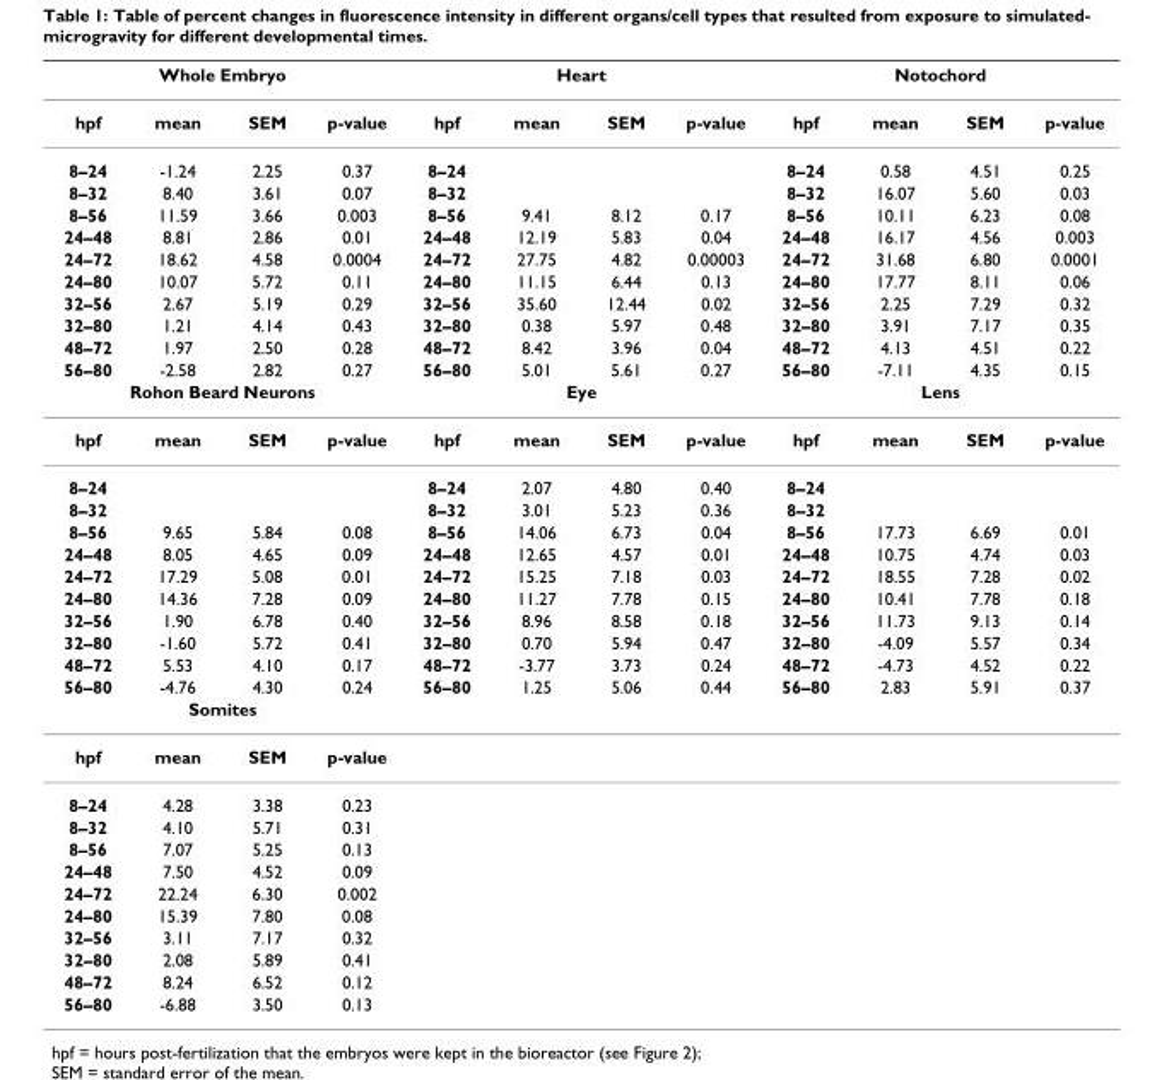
<table><thead><tr><td colspan="4">Whole Embryo</td><td colspan="4">Heart</td><td colspan="4">Notochord</td></tr><tr><td>hpf</td><td>mean</td><td>SEM</td><td>p-value</td><td>hpf</td><td>mean</td><td>SEM</td><td>p-value</td><td>hpf</td><td>mean</td><td>SEM</td><td>p-value</td></tr></thead><tbody><tr><td>8–24</td><td>-1.24</td><td>2.25</td><td>0.37</td><td>8–24</td><td></td><td></td><td></td><td>8–24</td><td>0.58</td><td>4.51</td><td>0.25</td></tr><tr><td>8–32</td><td>8.40</td><td>3.61</td><td>0.07</td><td>8–32</td><td></td><td></td><td></td><td>8–32</td><td>16.07</td><td>5.60</td><td>0.03</td></tr><tr><td>8–56</td><td>11.59</td><td>3.66</td><td>0.003</td><td>8–56</td><td>9.41</td><td>8.12</td><td>0.17</td><td>8–56</td><td>10.11</td><td>6.23</td><td>0.08</td></tr><tr><td>24–48</td><td>8.81</td><td>2.86</td><td>0.01</td><td>24–48</td><td>12.19</td><td>5.83</td><td>0.04</td><td>24–48</td><td>16.17</td><td>4.56</td><td>0.003</td></tr><tr><td>24–72</td><td>18.62</td><td>4.58</td><td>0.0004</td><td>24–72</td><td>27.75</td><td>4.82</td><td>0.00003</td><td>24–72</td><td>31.68</td><td>6.80</td><td>0.0001</td></tr><tr><td>24–80</td><td>10.07</td><td>5.72</td><td>0.11</td><td>24–80</td><td>11.15</td><td>6.44</td><td>0.13</td><td>24–80</td><td>17.77</td><td>8.11</td><td>0.06</td></tr><tr><td>32–56</td><td>2.67</td><td>5.19</td><td>0.29</td><td>32–56</td><td>35.60</td><td>12.44</td><td>0.02</td><td>32–56</td><td>2.25</td><td>7.29</td><td>0.32</td></tr><tr><td>32–80</td><td>1.21</td><td>4.14</td><td>0.43</td><td>32–80</td><td>0.38</td><td>5.97</td><td>0.48</td><td>32–80</td><td>3.91</td><td>7.17</td><td>0.35</td></tr><tr><td>48–72</td><td>1.97</td><td>2.50</td><td>0.28</td><td>48–72</td><td>8.42</td><td>3.96</td><td>0.04</td><td>48–72</td><td>4.13</td><td>4.51</td><td>0.22</td></tr><tr><td>56–80</td><td>-2.58</td><td>2.82</td><td>0.27</td><td>56–80</td><td>5.01</td><td>5.61</td><td>0.27</td><td>56–80</td><td>-7.11</td><td>4.35</td><td>0.15</td></tr><tr><td colspan="4">Rohon Beard Neurons</td><td colspan="4">Eye</td><td colspan="4">Lens</td></tr><tr><td>hpf</td><td>mean</td><td>SEM</td><td>p-value</td><td>hpf</td><td>mean</td><td>SEM</td><td>p-value</td><td>hpf</td><td>mean</td><td>SEM</td><td>p-value</td></tr><tr><td>8–24</td><td></td><td></td><td></td><td>8–24</td><td>2.07</td><td>4.80</td><td>0.40</td><td>8–24</td><td></td><td></td><td></td></tr><tr><td>8–32</td><td></td><td></td><td></td><td>8–32</td><td>3.01</td><td>5.23</td><td>0.36</td><td>8–32</td><td></td><td></td><td></td></tr><tr><td>8–56</td><td>9.65</td><td>5.84</td><td>0.08</td><td>8–56</td><td>14.06</td><td>6.73</td><td>0.04</td><td>8–56</td><td>17.73</td><td>6.69</td><td>0.01</td></tr><tr><td>24–48</td><td>8.05</td><td>4.65</td><td>0.09</td><td>24–48</td><td>12.65</td><td>4.57</td><td>0.01</td><td>24–48</td><td>10.75</td><td>4.74</td><td>0.03</td></tr><tr><td>24–72</td><td>17.29</td><td>5.08</td><td>0.01</td><td>24–72</td><td>15.25</td><td>7.18</td><td>0.03</td><td>24–72</td><td>18.55</td><td>7.28</td><td>0.02</td></tr><tr><td>24–80</td><td>14.36</td><td>7.28</td><td>0.09</td><td>24–80</td><td>11.27</td><td>7.78</td><td>0.15</td><td>24–80</td><td>10.41</td><td>7.78</td><td>0.18</td></tr><tr><td>32–56</td><td>1.90</td><td>6.78</td><td>0.40</td><td>32–56</td><td>8.96</td><td>8.58</td><td>0.18</td><td>32–56</td><td>11.73</td><td>9.13</td><td>0.14</td></tr><tr><td>32–80</td><td>-1.60</td><td>5.72</td><td>0.41</td><td>32–80</td><td>0.70</td><td>5.94</td><td>0.47</td><td>32–80</td><td>-4.09</td><td>5.57</td><td>0.34</td></tr><tr><td>48–72</td><td>5.53</td><td>4.10</td><td>0.17</td><td>48–72</td><td>-3.77</td><td>3.73</td><td>0.24</td><td>48–72</td><td>-4.73</td><td>4.52</td><td>0.22</td></tr><tr><td>56–80</td><td>-4.76</td><td>4.30</td><td>0.24</td><td>56–80</td><td>1.25</td><td>5.06</td><td>0.44</td><td>56–80</td><td>2.83</td><td>5.91</td><td>0.37</td></tr><tr><td colspan="12">Somites</td></tr><tr><td>hpf</td><td>mean</td><td>SEM</td><td>p-value</td><td></td><td></td><td></td><td></td><td></td><td></td><td></td><td></td></tr><tr><td>8–24</td><td>4.28</td><td>3.38</td><td>0.23</td><td></td><td></td><td></td><td></td><td></td><td></td><td></td><td></td></tr><tr><td>8–32</td><td>4.10</td><td>5.71</td><td>0.31</td><td></td><td></td><td></td><td></td><td></td><td></td><td></td><td></td></tr><tr><td>8–56</td><td>7.07</td><td>5.25</td><td>0.13</td><td></td><td></td><td></td><td></td><td></td><td></td><td></td><td></td></tr><tr><td>24–48</td><td>7.50</td><td>4.52</td><td>0.09</td><td></td><td></td><td></td><td></td><td></td><td></td><td></td><td></td></tr><tr><td>24–72</td><td>22.24</td><td>6.30</td><td>0.002</td><td></td><td></td><td></td><td></td><td></td><td></td><td></td><td></td></tr><tr><td>24–80</td><td>15.39</td><td>7.80</td><td>0.08</td><td></td><td></td><td></td><td></td><td></td><td></td><td></td><td></td></tr><tr><td>32–56</td><td>3.11</td><td>7.17</td><td>0.32</td><td></td><td></td><td></td><td></td><td></td><td></td><td></td><td></td></tr><tr><td>32–80</td><td>2.08</td><td>5.89</td><td>0.41</td><td></td><td></td><td></td><td></td><td></td><td></td><td></td><td></td></tr><tr><td>48–72</td><td>8.24</td><td>6.52</td><td>0.12</td><td></td><td></td><td></td><td></td><td></td><td></td><td></td><td></td></tr><tr><td>56–80</td><td>-6.88</td><td>3.50</td><td>0.13</td><td></td><td></td><td></td><td></td><td></td><td></td><td></td><td></td></tr></tbody></table>